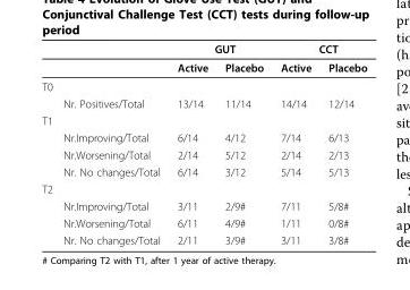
<table><thead><tr><td rowspan="2"></td><td colspan="2">GUT</td><td colspan="2">CCT</td></tr><tr><td>Active</td><td>Placebo</td><td>Active</td><td>Placebo</td></tr></thead><tbody><tr><td colspan="5">T0</td></tr><tr><td>Nr. Positives/Total</td><td>13/14</td><td>11/14</td><td>14/14</td><td>12/14</td></tr><tr><td colspan="5">T1</td></tr><tr><td>Nr.Improving/Total</td><td>6/14</td><td>4/12</td><td>7/14</td><td>6/13</td></tr><tr><td>Nr.Worsening/Total</td><td>2/14</td><td>5/12</td><td>2/14</td><td>2/13</td></tr><tr><td>Nr. No changes/Total</td><td>6/14</td><td>3/12</td><td>5/14</td><td>5/13</td></tr><tr><td colspan="5">T2</td></tr><tr><td>Nr.Improving/Total</td><td>3/11</td><td>2/9#</td><td>7/11</td><td>5/8#</td></tr><tr><td>Nr.Worsening/Total</td><td>6/11</td><td>4/9#</td><td>1/11</td><td>0/8#</td></tr><tr><td>Nr. No changes/Total</td><td>2/11</td><td>3/9#</td><td>3/11</td><td>3/8#</td></tr></tbody></table>